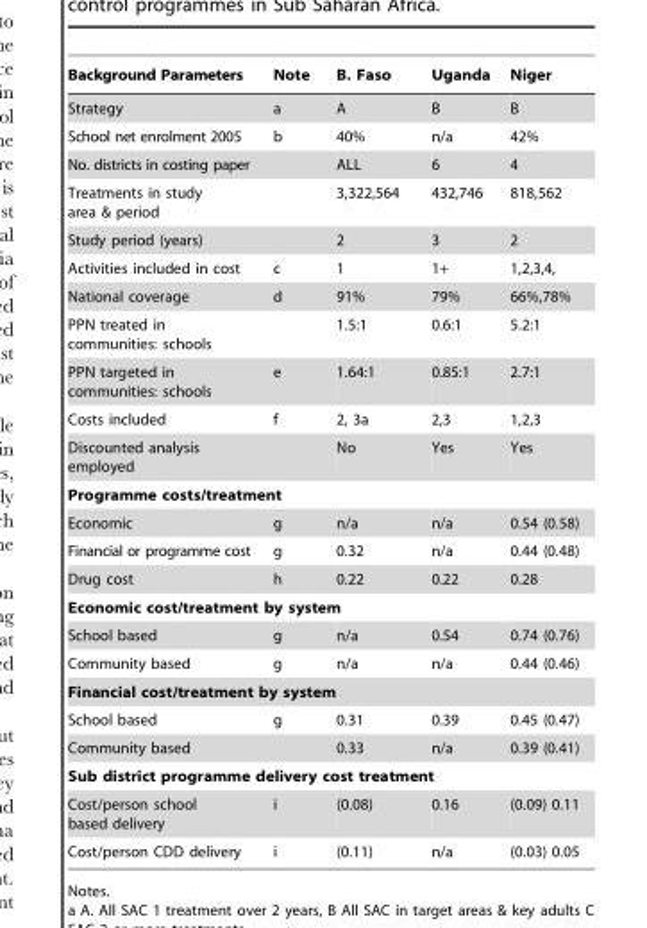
<table><thead><tr><td>Background Parameters</td><td>Note</td><td>B. Faso</td><td>Uganda</td><td>Niger</td></tr></thead><tbody><tr><td>Strategy</td><td>a</td><td>A</td><td>B</td><td>B</td></tr><tr><td>School net enrolment 2005</td><td>b</td><td>40%</td><td>n/a</td><td>42%</td></tr><tr><td>No. districts in costing paper</td><td></td><td>ALL</td><td>6</td><td>4</td></tr><tr><td>Treatments in study area &amp; period</td><td></td><td>3,322,564</td><td>432,746</td><td>818,562</td></tr><tr><td>Study period (years)</td><td></td><td>2</td><td>3</td><td>2</td></tr><tr><td>Activities included in cost</td><td>c</td><td>1</td><td>1+</td><td>1,2,3,4,</td></tr><tr><td>National coverage</td><td>d</td><td>91%</td><td>79%</td><td>66%,78%</td></tr><tr><td>PPN treated in communities: schools</td><td></td><td>1.5:1</td><td>0.6:1</td><td>5.2:1</td></tr><tr><td>PPN targeted in communities: schools</td><td>e</td><td>1.64:1</td><td>0.85:1</td><td>2.7:1</td></tr><tr><td>Costs included</td><td>f</td><td>2, 3a</td><td>2,3</td><td>1,2,3</td></tr><tr><td>Discounted analysis employed</td><td></td><td>No</td><td>Yes</td><td>Yes</td></tr><tr><td colspan="5">Programme costs/treatment</td></tr><tr><td>Economic</td><td>g</td><td>n/a</td><td>n/a</td><td>0.54 (0.58)</td></tr><tr><td>Financial or programme cost</td><td>g</td><td>0.32</td><td>n/a</td><td>0.44 (0.48)</td></tr><tr><td>Drug cost</td><td>h</td><td>0.22</td><td>0.22</td><td>0.28</td></tr><tr><td colspan="5">Economic cost/treatment by system</td></tr><tr><td>School based</td><td>g</td><td>n/a</td><td>0.54</td><td>0.74 (0.76)</td></tr><tr><td>Community based</td><td>g</td><td>n/a</td><td>n/a</td><td>0.44 (0.46)</td></tr><tr><td colspan="5">Financial cost/treatment by system</td></tr><tr><td>School based</td><td>g</td><td>0.31</td><td>0.39</td><td>0.45 (0.47)</td></tr><tr><td>Community based</td><td></td><td>0.33</td><td>n/a</td><td>0.39 (0.41)</td></tr><tr><td colspan="5">Sub district programme delivery cost treatment</td></tr><tr><td>Cost/person school based delivery</td><td>i</td><td>(0.08)</td><td>0.16</td><td>(0.09) 0.11</td></tr><tr><td>Cost/person CDD delivery</td><td>i</td><td>(0.11)</td><td>n/a</td><td>(0.03) 0.05</td></tr></tbody></table>